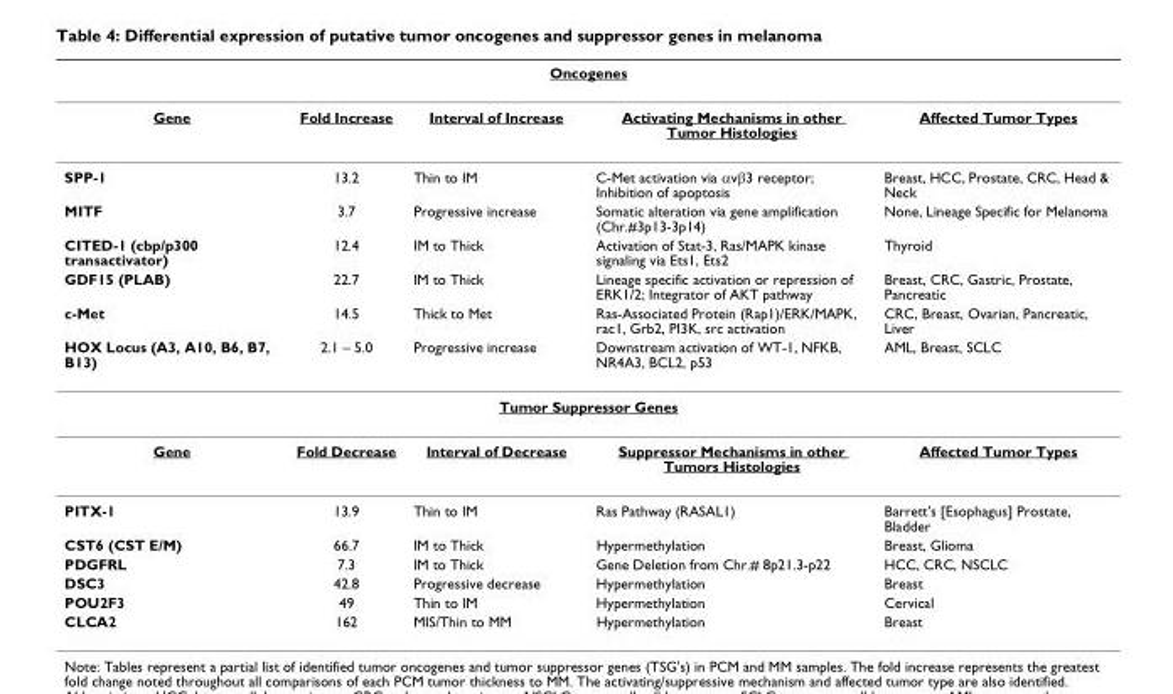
<table><thead><tr><td colspan="5">Oncogenes</td></tr><tr><td>Gene</td><td>Fold Increase</td><td>Interval of Increase</td><td>Activating Mechanisms in other Tumor Histologies</td><td>Affected Tumor Types</td></tr></thead><tbody><tr><td>SPP-1</td><td>13.2</td><td>Thin to IM</td><td>C-Met activation via αvβ3 receptor; Inhibition of apoptosis</td><td>Breast, HCC, Prostate, CRC, Head &amp; Neck</td></tr><tr><td>MITF</td><td>3.7</td><td>Progressive increase</td><td>Somatic alteration via gene amplification (Chr.#3p13-3p14)</td><td>None, Lineage Specific for Melanoma</td></tr><tr><td>CITED-1 (cbp/p300 transactivator)</td><td>12.4</td><td>IM to Thick</td><td>Activation of Stat-3, Ras/MAPK kinase signaling via Ets1, Ets2</td><td>Thyroid</td></tr><tr><td>GDF15 (PLAB)</td><td>22.7</td><td>IM to Thick</td><td>Lineage specific activation or repression of ERK1/2; Integrator of AKT pathway</td><td>Breast, CRC, Gastric, Prostate, Pancreatic</td></tr><tr><td>c-Met</td><td>14.5</td><td>Thick to Met</td><td>Ras-Associated Protein (Rap1)/ERK/MAPK, rac1, Grb2, PI3K, src activation</td><td>CRC, Breast, Ovarian, Pancreatic, Liver</td></tr><tr><td>HOX Locus (A3, A10, B6, B7, B13)</td><td>2.1 – 5.0</td><td>Progressive increase</td><td>Downstream activation of WT-1, NFKB, NR4A3, BCL2, p53</td><td>AML, Breast, SCLC</td></tr><tr><td colspan="5">Tumor Suppressor Genes</td></tr><tr><td>Gene</td><td>Fold Decrease</td><td>Interval of Decrease</td><td>Suppressor Mechanisms in other Tumors Histologies</td><td>Affected Tumor Types</td></tr><tr><td>PITX-1</td><td>13.9</td><td>Thin to IM</td><td>Ras Pathway (RASAL1)</td><td>Barrett&#x27;s [Esophagus] Prostate, Bladder</td></tr><tr><td>CST6 (CST E/M)</td><td>66.7</td><td>IM to Thick</td><td>Hypermethylation</td><td>Breast, Glioma</td></tr><tr><td>PDGFRL</td><td>7.3</td><td>IM to Thick</td><td>Gene Deletion from Chr.# 8p21.3-p22</td><td>HCC, CRC, NSCLC</td></tr><tr><td>DSC3</td><td>42.8</td><td>Progressive decrease</td><td>Hypermethylation</td><td>Breast</td></tr><tr><td>POU2F3</td><td>49</td><td>Thin to IM</td><td>Hypermethylation</td><td>Cervical</td></tr><tr><td>CLCA2</td><td>162</td><td>MIS/Thin to MM</td><td>Hypermethylation</td><td>Breast</td></tr></tbody></table>